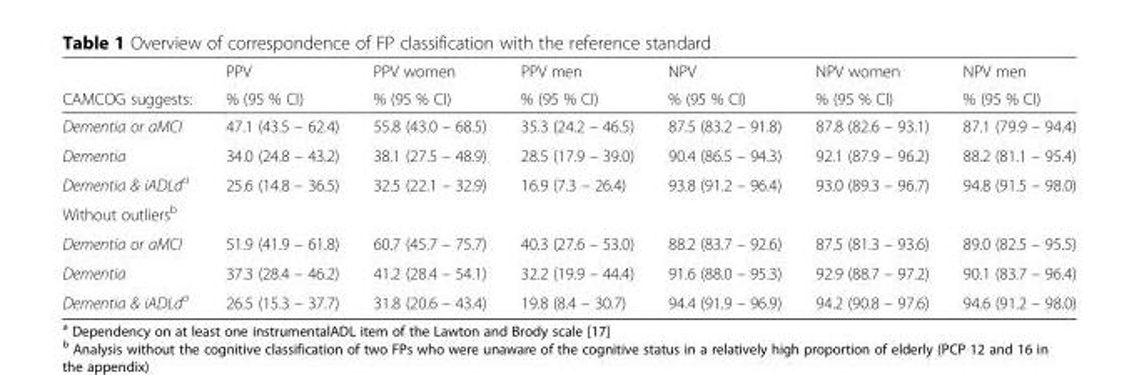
<table><thead><tr><td rowspan="2">CAMCOG suggests:</td><td rowspan="2">PPV % (95 % CI)</td><td rowspan="2">PPV women % (95 % CI)</td><td rowspan="2">PPV men % (95 % CI)</td><td rowspan="2">NPV % (95 % CI)</td><td rowspan="2">NPV women % (95 % CI)</td><td rowspan="2">NPV men % (95 % CI)</td></tr><tr></tr></thead><tbody><tr><td>Dementia or aMCI</td><td>47.1 (43.5 – 62.4)</td><td>55.8 (43.0 – 68.5)</td><td>35.3 (24.2 – 46.5)</td><td>87.5 (83.2 – 91.8)</td><td>87.8 (82.6 – 93.1)</td><td>87.1 (79.9 – 94.4)</td></tr><tr><td>Dementia</td><td>34.0 (24.8 – 43.2)</td><td>38.1 (27.5 – 48.9)</td><td>28.5 (17.9 – 39.0)</td><td>90.4 (86.5 – 94.3)</td><td>92.1 (87.9 – 96.2)</td><td>88.2 (81.1 – 95.4)</td></tr><tr><td>Dementia &amp; iADLd<sup>a</sup></td><td>25.6 (14.8 – 36.5)</td><td>32.5 (22.1 – 32.9)</td><td>16.9 (7.3 – 26.4)</td><td>93.8 (91.2 – 96.4)</td><td>93.0 (89.3 – 96.7)</td><td>94.8 (91.5 – 98.0)</td></tr><tr><td colspan="7">Without outliers<sup>b</sup></td></tr><tr><td>Dementia or aMCI</td><td>51.9 (41.9 – 61.8)</td><td>60.7 (45.7 – 75.7)</td><td>40.3 (27.6 – 53.0)</td><td>88.2 (83.7 – 92.6)</td><td>87.5 (81.3 – 93.6)</td><td>89.0 (82.5 – 95.5)</td></tr><tr><td>Dementia</td><td>37.3 (28.4 – 46.2)</td><td>41.2 (28.4 – 54.1)</td><td>32.2 (19.9 – 44.4)</td><td>91.6 (88.0 – 95.3)</td><td>92.9 (88.7 – 97.2)</td><td>90.1 (83.7 – 96.4)</td></tr><tr><td>Dementia &amp; iADLd<sup>a</sup></td><td>26.5 (15.3 – 37.7)</td><td>31.8 (20.6 – 43.4)</td><td>19.8 (8.4 – 30.7)</td><td>94.4 (91.9 – 96.9)</td><td>94.2 (90.8 – 97.6)</td><td>94.6 (91.2 – 98.0)</td></tr></tbody></table>